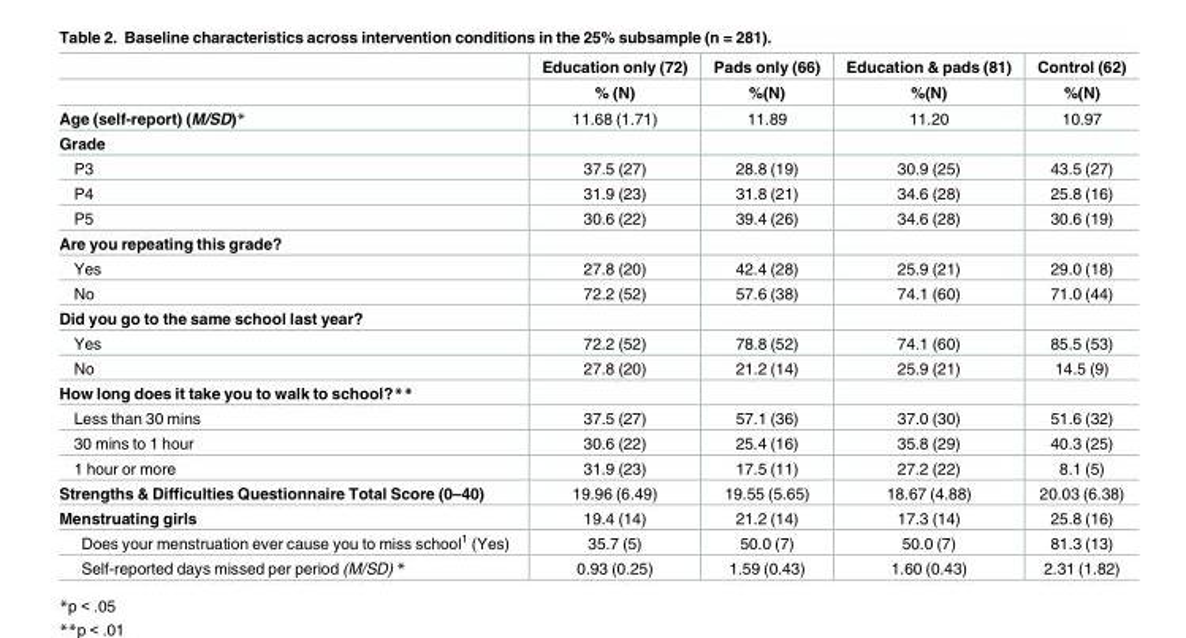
<table><thead><tr><td rowspan="2"></td><td rowspan="2">Education only (72) % (N)</td><td rowspan="2">Pads only (66) %(N)</td><td rowspan="2">Education &amp; pads (81) %(N)</td><td rowspan="2">Control (62) %(N)</td></tr><tr></tr></thead><tbody><tr><td>Age (self-report) (M/SD)*</td><td>11.68 (1.71)</td><td>11.89</td><td>11.20</td><td>10.97</td></tr><tr><td colspan="5">Grade</td></tr><tr><td>P3</td><td>37.5 (27)</td><td>28.8 (19)</td><td>30.9 (25)</td><td>43.5 (27)</td></tr><tr><td>P4</td><td>31.9 (23)</td><td>31.8 (21)</td><td>34.6 (28)</td><td>25.8 (16)</td></tr><tr><td>P5</td><td>30.6 (22)</td><td>39.4 (26)</td><td>34.6 (28)</td><td>30.6 (19)</td></tr><tr><td colspan="5">Are you repeating this grade?</td></tr><tr><td>Yes</td><td>27.8 (20)</td><td>42.4 (28)</td><td>25.9 (21)</td><td>29.0 (18)</td></tr><tr><td>No</td><td>72.2 (52)</td><td>57.6 (38)</td><td>74.1 (60)</td><td>71.0 (44)</td></tr><tr><td colspan="5">Did you go to the same school last year?</td></tr><tr><td>Yes</td><td>72.2 (52)</td><td>78.8 (52)</td><td>74.1 (60)</td><td>85.5 (53)</td></tr><tr><td>No</td><td>27.8 (20)</td><td>21.2 (14)</td><td>25.9 (21)</td><td>14.5 (9)</td></tr><tr><td colspan="5">How long does it take you to walk to school?**</td></tr><tr><td>Less than 30 mins</td><td>37.5 (27)</td><td>57.1 (36)</td><td>37.0 (30)</td><td>51.6 (32)</td></tr><tr><td>30 mins to 1 hour</td><td>30.6 (22)</td><td>25.4 (16)</td><td>35.8 (29)</td><td>40.3 (25)</td></tr><tr><td>1 hour or more</td><td>31.9 (23)</td><td>17.5 (11)</td><td>27.2 (22)</td><td>8.1 (5)</td></tr><tr><td>Strengths &amp; Difficulties Questionnaire Total Score (0–40)</td><td>19.96 (6.49)</td><td>19.55 (5.65)</td><td>18.67 (4.88)</td><td>20.03 (6.38)</td></tr><tr><td>Menstruating girls</td><td>19.4 (14)</td><td>21.2 (14)</td><td>17.3 (14)</td><td>25.8 (16)</td></tr><tr><td>Does your menstruation ever cause you to miss school<sup>1</sup> (Yes)</td><td>35.7 (5)</td><td>50.0 (7)</td><td>50.0 (7)</td><td>81.3 (13)</td></tr><tr><td>Self-reported days missed per period (M/SD) *</td><td>0.93 (0.25)</td><td>1.59 (0.43)</td><td>1.60 (0.43)</td><td>2.31 (1.82)</td></tr></tbody></table>